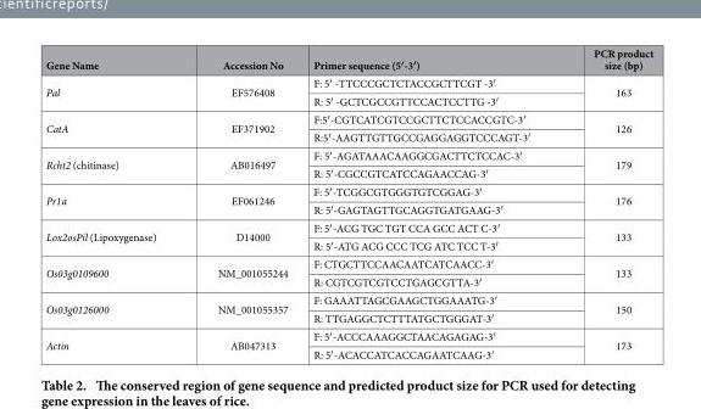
<table><thead><tr><td>Gene Name</td><td>Accession No</td><td>Primer sequence (5′-3′)</td><td>PCR product size (bp)</td></tr></thead><tbody><tr><td rowspan="2">Pal</td><td rowspan="2">EF576408</td><td>F: 5′ -TTCCCGCTCTACCGCTTCGT -3′</td><td rowspan="2">163</td></tr><tr><td>R: 5′ -GCTCGCCGTTCCACTCCTTG -3′</td></tr><tr><td rowspan="2">CatA</td><td rowspan="2">EF371902</td><td>F:5′ -CGTCATCGTCCGCTTCTCCACCGTC-3′</td><td rowspan="2">126</td></tr><tr><td>R:5′ -AAGTTGTTGCCGAGGAGGTCCCAGT-3′</td></tr><tr><td rowspan="2">Rcht2 (chitinase)</td><td rowspan="2">AB016497</td><td>F: 5′ -AGATAAACAAGGCGACTTCTCCAC-3′</td><td rowspan="2">179</td></tr><tr><td>R: 5′ -CGCCGTCATCCAGAACCAG-3′</td></tr><tr><td rowspan="2">Pr1a</td><td rowspan="2">EF061246</td><td>F: 5′ -TCGGCGTGGGTGTCGGAG-3′</td><td rowspan="2">176</td></tr><tr><td>R: 5′ -GAGTAGTTGCAGGTGATGAAG-3′</td></tr><tr><td rowspan="2">Lox2osPil (Lipoxygenase)</td><td rowspan="2">D14000</td><td>F: 5′ -ACG TGC TGT CCA GCC ACT C-3′</td><td rowspan="2">133</td></tr><tr><td>R: 5′ -ATG ACG CCC TCG ATC TCC T-3′</td></tr><tr><td rowspan="2">Os03g0109600</td><td rowspan="2">NM_001055244</td><td>F: CTGCTTCCAACAATCATCAACC-3′</td><td rowspan="2">133</td></tr><tr><td>R: CGTCGTCGTCCTGAGCGTTA-3′</td></tr><tr><td rowspan="2">Os03g0126000</td><td rowspan="2">NM_001055357</td><td>F: GAAATTAGCGAAGCTGGAAATG-3′</td><td rowspan="2">150</td></tr><tr><td>R: TTGAGGCTCTTTATGCTGGGAT-3′</td></tr><tr><td rowspan="2">Actin</td><td rowspan="2">AB047313</td><td>F: 5′ -ACCCAAAGGCTAACAGAGAG-3′</td><td rowspan="2">173</td></tr><tr><td>R: 5′ -ACACCATCACCAGAATCAAG-3′</td></tr></tbody></table>